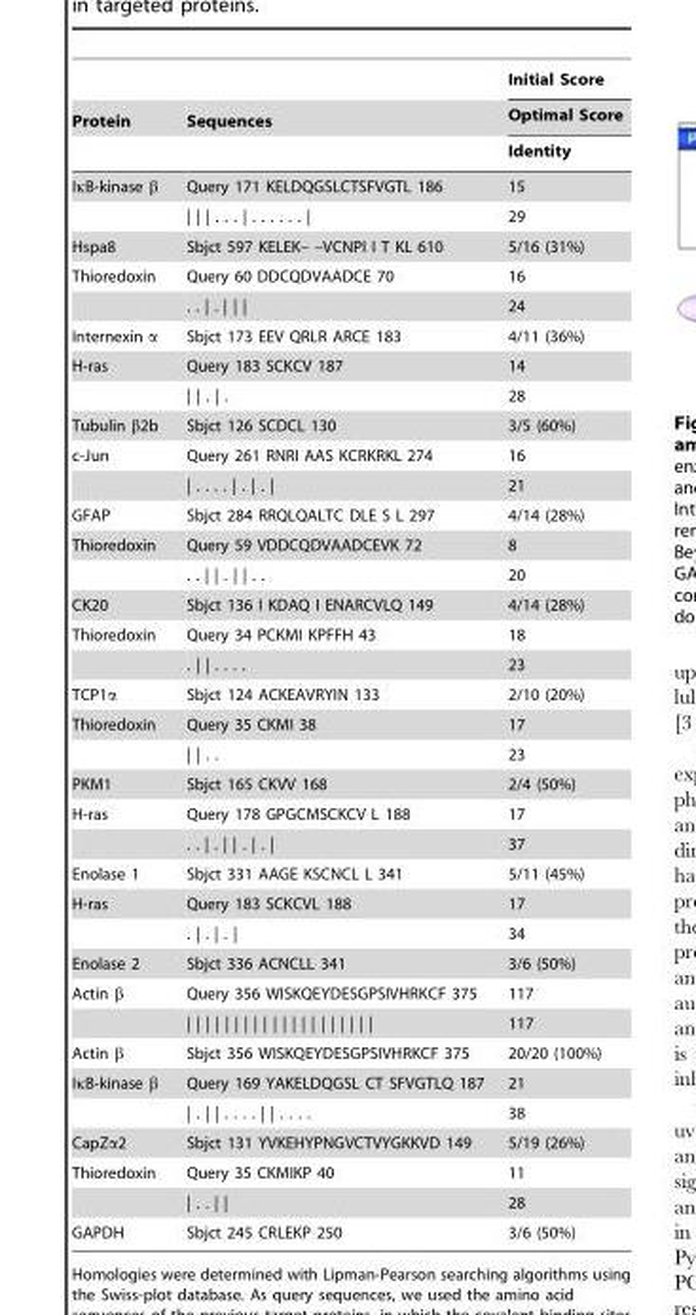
<table><thead><tr><td rowspan="3">Protein</td><td rowspan="3">Sequences</td><td rowspan="3">Initial Score Optimal Score Identity</td></tr><tr></tr><tr></tr></thead><tbody><tr><td rowspan="2">IκB-kinase β</td><td>Query 171 KELDQGSLCTSFVGTL 186</td><td>15</td></tr><tr><td>| | | . . . | . . . . . . |</td><td>29</td></tr><tr><td>Hspa8</td><td>Sbjct 597 KELEK– –VCNPI I T KL 610</td><td>5/16 (31%)</td></tr><tr><td rowspan="2">Thioredoxin</td><td>Query 60 DDCQDVAADCE 70</td><td>16</td></tr><tr><td>. . | . | | |</td><td>24</td></tr><tr><td>Internexin α</td><td>Sbjct 173 EEV QRLR ARCE 183</td><td>4/11 (36%)</td></tr><tr><td rowspan="2">H-ras</td><td>Query 183 SCKCV 187</td><td>14</td></tr><tr><td>| | . | .</td><td>28</td></tr><tr><td>Tubulin β2b</td><td>Sbjct 126 SCDCL 130</td><td>3/5 (60%)</td></tr><tr><td rowspan="2">c-Jun</td><td>Query 261 RNRI AAS KCRKRKL 274</td><td>16</td></tr><tr><td>| . . . . | . | . |</td><td>21</td></tr><tr><td>GFAP</td><td>Sbjct 284 RRQLQALTC DLE S L 297</td><td>4/14 (28%)</td></tr><tr><td rowspan="2">Thioredoxin</td><td>Query 59 VDDCQDVAADCEVK 72</td><td>8</td></tr><tr><td>. . | | . | | . .</td><td>20</td></tr><tr><td>CK20</td><td>Sbjct 136 I KDAQ I ENARCVLQ 149</td><td>4/14 (28%)</td></tr><tr><td rowspan="2">Thioredoxin</td><td>Query 34 PCKMI KPFFH 43</td><td>18</td></tr><tr><td>. | | . . . .</td><td>23</td></tr><tr><td>TCP1α</td><td>Sbjct 124 ACKEAVRYIN 133</td><td>2/10 (20%)</td></tr><tr><td rowspan="2">Thioredoxin</td><td>Query 35 CKMI 38</td><td>17</td></tr><tr><td>| | . .</td><td>23</td></tr><tr><td>PKM1</td><td>Sbjct 165 CKVV 168</td><td>2/4 (50%)</td></tr><tr><td rowspan="2">H-ras</td><td>Query 178 GPGCMSCKCV L 188</td><td>17</td></tr><tr><td>. . | . | | . | . |</td><td>37</td></tr><tr><td>Enolase 1</td><td>Sbjct 331 AAGE KSCNCL L 341</td><td>5/11 (45%)</td></tr><tr><td rowspan="2">H-ras</td><td>Query 183 SCKCVL 188</td><td>17</td></tr><tr><td>. | . | . |</td><td>34</td></tr><tr><td>Enolase 2</td><td>Sbjct 336 ACNCLL 341</td><td>3/6 (50%)</td></tr><tr><td rowspan="2">Actin β</td><td>Query 356 WISKQEYDESGPSIVHRKCF 375</td><td>117</td></tr><tr><td>| | | | | | | | | | | | | | | | | | | |</td><td>117</td></tr><tr><td>Actin β</td><td>Sbjct 356 WISKQEYDESGPSIVHRKCF 375</td><td>20/20 (100%)</td></tr><tr><td rowspan="2">IκB-kinase β</td><td>Query 169 YAKELDQGSL CT SFVGTLQ 187</td><td>21</td></tr><tr><td>| . | | . . . . | | . . . .</td><td>38</td></tr><tr><td>CapZα2</td><td>Sbjct 131 YVKEHYPNGVCTVYGKKVD 149</td><td>5/19 (26%)</td></tr><tr><td rowspan="2">Thioredoxin</td><td>Query 35 CKMIKP 40</td><td>11</td></tr><tr><td>| . . | |</td><td>28</td></tr><tr><td>GAPDH</td><td>Sbjct 245 CRLEKP 250</td><td>3/6 (50%)</td></tr></tbody></table>